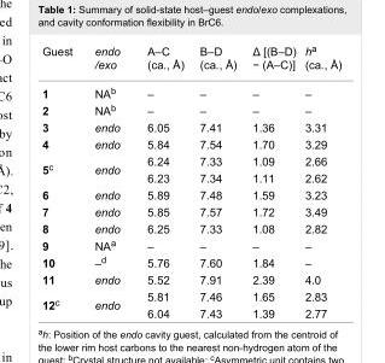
<table><tbody><tr><td>Guest</td><td>endo /exo</td><td>A–C (ca., Å)</td><td>B–D (ca., Å)</td><td>Δ [(B–D) − (A–C)]</td><td>h<sup>a</sup> (ca., Å)</td></tr><tr><td>1</td><td>NA<sup>b</sup></td><td>–</td><td>–</td><td>–</td><td>–</td></tr><tr><td>2</td><td>NA<sup>b</sup></td><td>–</td><td>–</td><td>–</td><td>–</td></tr><tr><td>3</td><td>endo</td><td>6.05</td><td>7.41</td><td>1.36</td><td>3.31</td></tr><tr><td>4</td><td>endo</td><td>5.84</td><td>7.54</td><td>1.70</td><td>3.29</td></tr><tr><td rowspan="2">5<sup>c</sup></td><td rowspan="2">endo</td><td>6.24</td><td>7.33</td><td>1.09</td><td>2.66</td></tr><tr><td>6.23</td><td>7.34</td><td>1.11</td><td>2.62</td></tr><tr><td>6</td><td>endo</td><td>5.89</td><td>7.48</td><td>1.59</td><td>3.23</td></tr><tr><td>7</td><td>endo</td><td>5.85</td><td>7.57</td><td>1.72</td><td>3.49</td></tr><tr><td>8</td><td>endo</td><td>6.25</td><td>7.33</td><td>1.08</td><td>2.82</td></tr><tr><td>9</td><td>NA<sup>a</sup></td><td>–</td><td>–</td><td>–</td><td>–</td></tr><tr><td>10</td><td>–<sup>d</sup></td><td>5.76</td><td>7.60</td><td>1.84</td><td>–</td></tr><tr><td>11</td><td>endo</td><td>5.52</td><td>7.91</td><td>2.39</td><td>4.0</td></tr><tr><td rowspan="2">12<sup>c</sup></td><td rowspan="2">endo</td><td>5.81</td><td>7.46</td><td>1.65</td><td>2.83</td></tr><tr><td>6.04</td><td>7.43</td><td>1.39</td><td>2.77</td></tr></tbody></table>